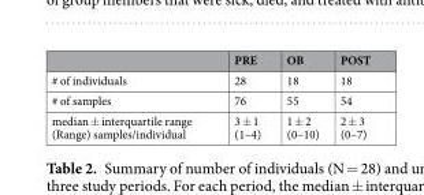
<table><thead><tr><td></td><td>PRE</td><td>OB</td><td>POST</td></tr></thead><tbody><tr><td># of individuals</td><td>28</td><td>18</td><td>18</td></tr><tr><td># of samples</td><td>76</td><td>55</td><td>54</td></tr><tr><td>median ± interquartile range (Range) samples/individual</td><td>3 ± 1 (1–4)</td><td>1 ± 2 (0–10)</td><td>2 ± 3 (0–7)</td></tr></tbody></table>